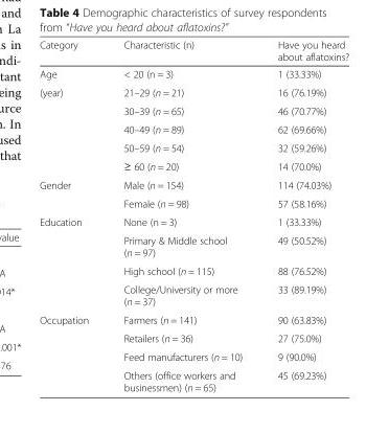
<table><thead><tr><td>Category</td><td>Characteristic (n)</td><td>Have you heard about aflatoxins?</td></tr></thead><tbody><tr><td>Age</td><td>&lt; 20 (n = 3)</td><td>1 (33.33%)</td></tr><tr><td rowspan="5">(year)</td><td>21–29 (n = 21)</td><td>16 (76.19%)</td></tr><tr><td>30–39 (n = 65)</td><td>46 (70.77%)</td></tr><tr><td>40–49 (n = 89)</td><td>62 (69.66%)</td></tr><tr><td>50–59 (n = 54)</td><td>32 (59.26%)</td></tr><tr><td>≥ 60 (n = 20)</td><td>14 (70.0%)</td></tr><tr><td rowspan="2">Gender</td><td>Male (n = 154)</td><td>114 (74.03%)</td></tr><tr><td>Female (n = 98)</td><td>57 (58.16%)</td></tr><tr><td rowspan="4">Education</td><td>None (n = 3)</td><td>1 (33.33%)</td></tr><tr><td>Primary &amp; Middle school (n = 97)</td><td>49 (50.52%)</td></tr><tr><td>High school (n = 115)</td><td>88 (76.52%)</td></tr><tr><td>College/University or more (n = 37)</td><td>33 (89.19%)</td></tr><tr><td rowspan="4">Occupation</td><td>Farmers (n = 141)</td><td>90 (63.83%)</td></tr><tr><td>Retailers (n = 36)</td><td>27 (75.0%)</td></tr><tr><td>Feed manufacturers (n = 10)</td><td>9 (90.0%)</td></tr><tr><td>Others (office workers and businessmen) (n = 65)</td><td>45 (69.23%)</td></tr></tbody></table>